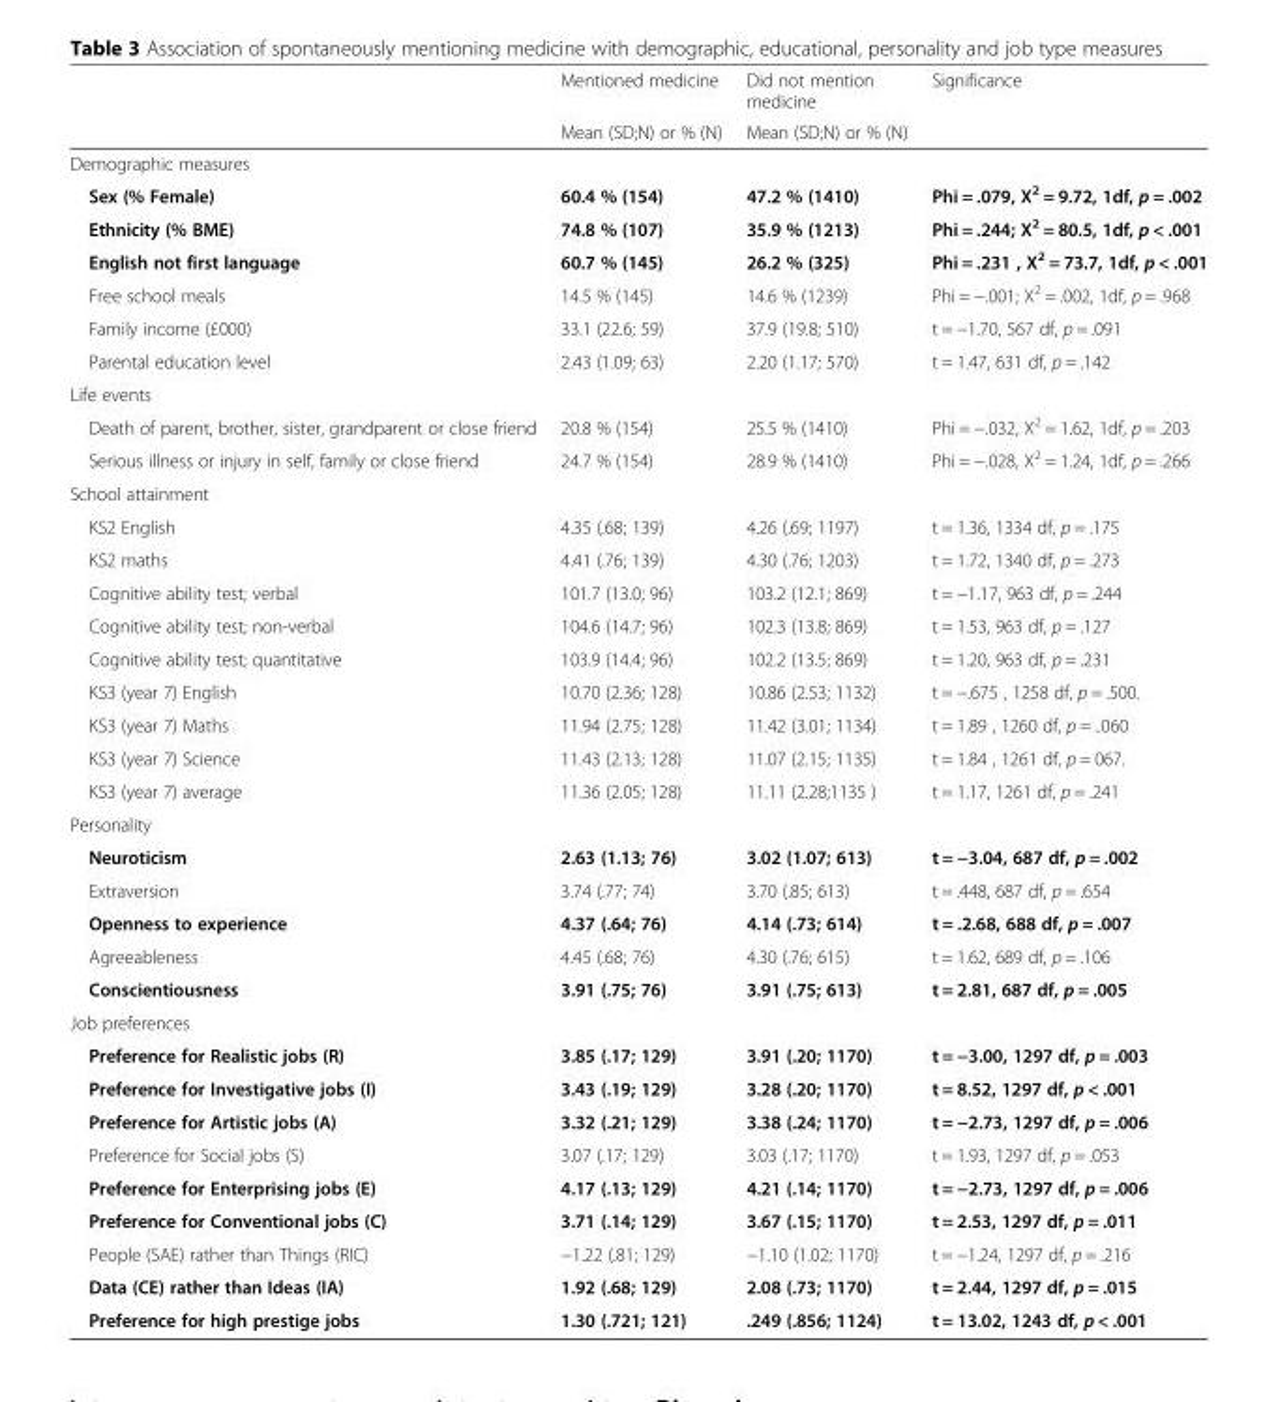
<table><thead><tr><td rowspan="2"></td><td rowspan="2">Mentioned medicine Mean (SD;N) or % (N)</td><td rowspan="2">Did not mention medicine Mean (SD;N) or % (N)</td><td rowspan="2">Significance</td></tr><tr></tr></thead><tbody><tr><td colspan="4">Demographic measures</td></tr><tr><td>Sex (% Female)</td><td>60.4 % (154)</td><td>47.2 % (1410)</td><td>Phi = .079, X<sup>2</sup> = 9.72, 1df, p = .002</td></tr><tr><td>Ethnicity (% BME)</td><td>74.8 % (107)</td><td>35.9 % (1213)</td><td>Phi = .244; X<sup>2</sup> = 80.5, 1df, p &lt; .001</td></tr><tr><td>English not first language</td><td>60.7 % (145)</td><td>26.2 % (325)</td><td>Phi = .231 , X<sup>2</sup> = 73.7, 1df, p &lt; .001</td></tr><tr><td>Free school meals</td><td>14.5 % (145)</td><td>14.6 % (1239)</td><td>Phi = −.001; X<sup>2</sup> = .002, 1df, p = .968</td></tr><tr><td>Family income (£000)</td><td>33.1 (22.6; 59)</td><td>37.9 (19.8; 510)</td><td>t = −1.70, 567 df, p = .091</td></tr><tr><td>Parental education level</td><td>2.43 (1.09; 63)</td><td>2.20 (1.17; 570)</td><td>t = 1.47, 631 df, p = .142</td></tr><tr><td colspan="4">Life events</td></tr><tr><td>Death of parent, brother, sister, grandparent or close friend</td><td>20.8 % (154)</td><td>25.5 % (1410)</td><td>Phi = −.032, X<sup>2</sup> = 1.62, 1df, p = .203</td></tr><tr><td>Serious illness or injury in self, family or close friend</td><td>24.7 % (154)</td><td>28.9 % (1410)</td><td>Phi = −.028, X<sup>2</sup> = 1.24, 1df, p = .266</td></tr><tr><td colspan="4">School attainment</td></tr><tr><td>KS2 English</td><td>4.35 (.68; 139)</td><td>4.26 (.69; 1197)</td><td>t = 1.36, 1334 df, p = .175</td></tr><tr><td>KS2 maths</td><td>4.41 (.76; 139)</td><td>4.30 (.76; 1203)</td><td>t = 1.72, 1340 df, p = .273</td></tr><tr><td>Cognitive ability test; verbal</td><td>101.7 (13.0; 96)</td><td>103.2 (12.1; 869)</td><td>t = −1.17, 963 df, p = .244</td></tr><tr><td>Cognitive ability test; non-verbal</td><td>104.6 (14.7; 96)</td><td>102.3 (13.8; 869)</td><td>t = 1.53, 963 df, p = .127</td></tr><tr><td>Cognitive ability test; quantitative</td><td>103.9 (14.4; 96)</td><td>102.2 (13.5; 869)</td><td>t = 1.20, 963 df, p = .231</td></tr><tr><td>KS3 (year 7) English</td><td>10.70 (2.36; 128)</td><td>10.86 (2.53; 1132)</td><td>t = −.675 , 1258 df, p = .500.</td></tr><tr><td>KS3 (year 7) Maths</td><td>11.94 (2.75; 128)</td><td>11.42 (3.01; 1134)</td><td>t = 1.89 , 1260 df, p = ..060</td></tr><tr><td>KS3 (year 7) Science</td><td>11.43 (2.13; 128)</td><td>11.07 (2.15; 1135)</td><td>t = 1.84 , 1261 df, p = 067.</td></tr><tr><td>KS3 (year 7) average</td><td>11.36 (2.05; 128)</td><td>11.11 (2.28;1135 )</td><td>t = 1.17, 1261 df, p = .241</td></tr><tr><td colspan="4">Personality</td></tr><tr><td>Neuroticism</td><td>2.63 (1.13; 76)</td><td>3.02 (1.07; 613)</td><td>t = −3.04, 687 df, p = .002</td></tr><tr><td>Extraversion</td><td>3.74 (.77; 74)</td><td>3.70 (.85; 613)</td><td>t = .448, 687 df, p = .654</td></tr><tr><td>Openness to experience</td><td>4.37 (.64; 76)</td><td>4.14 (.73; 614)</td><td>t = .2.68, 688 df, p = .007</td></tr><tr><td>Agreeableness</td><td>4.45 (.68; 76)</td><td>4.30 (.76; 615)</td><td>t = 1.62, 689 df, p = .106</td></tr><tr><td>Conscientiousness</td><td>3.91 (.75; 76)</td><td>3.91 (.75; 613)</td><td>t = 2.81, 687 df, p = .005</td></tr><tr><td colspan="4">Job preferences</td></tr><tr><td>Preference for Realistic jobs (R)</td><td>3.85 (.17; 129)</td><td>3.91 (.20; 1170)</td><td>t = −3.00, 1297 df, p = .003</td></tr><tr><td>Preference for Investigative jobs (I)</td><td>3.43 (.19; 129)</td><td>3.28 (.20; 1170)</td><td>t = 8.52, 1297 df, p &lt; .001</td></tr><tr><td>Preference for Artistic jobs (A)</td><td>3.32 (.21; 129)</td><td>3.38 (.24; 1170)</td><td>t = −2.73, 1297 df, p = .006</td></tr><tr><td>Preference for Social jobs (S)</td><td>3.07 (.17; 129)</td><td>3.03 (.17; 1170)</td><td>t = 1.93, 1297 df, p = .053</td></tr><tr><td>Preference for Enterprising jobs (E)</td><td>4.17 (.13; 129)</td><td>4.21 (.14; 1170)</td><td>t = −2.73, 1297 df, p = .006</td></tr><tr><td>Preference for Conventional jobs (C)</td><td>3.71 (.14; 129)</td><td>3.67 (.15; 1170)</td><td>t = 2.53, 1297 df, p = .011</td></tr><tr><td>People (SAE) rather than Things (RIC)</td><td>−1.22 (.81; 129)</td><td>−1.10 (1.02; 1170)</td><td>t = −1.24, 1297 df, p = .216</td></tr><tr><td>Data (CE) rather than Ideas (IA)</td><td>1.92 (.68; 129)</td><td>2.08 (.73; 1170)</td><td>t = 2.44, 1297 df, p = .015</td></tr><tr><td>Preference for high prestige jobs</td><td>1.30 (.721; 121)</td><td>.249 (.856; 1124)</td><td>t = 13.02, 1243 df, p &lt; .001</td></tr></tbody></table>